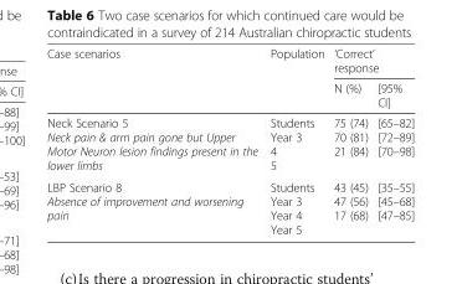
<table><thead><tr><td rowspan="2">Case scenarios</td><td rowspan="2">Population</td><td colspan="2">‘Correct’ response</td></tr><tr><td>N (%)</td><td>[95% CI]</td></tr></thead><tbody><tr><td>Neck Scenario 5 Neck pain &amp; arm pain gone but Upper Motor Neuron lesion findings present in the lower limbs</td><td>Students Year 3 4 5</td><td>75 (74) 70 (81) 21 (84)</td><td>[65–82] [72–89] [70–98]</td></tr><tr><td>LBP Scenario 8 Absence of improvement and worsening pain</td><td>Students Year 3 Year 4 Year 5</td><td>43 (45) 47 (56) 17 (68)</td><td>[35–55] [45–68] [47–85]</td></tr></tbody></table>